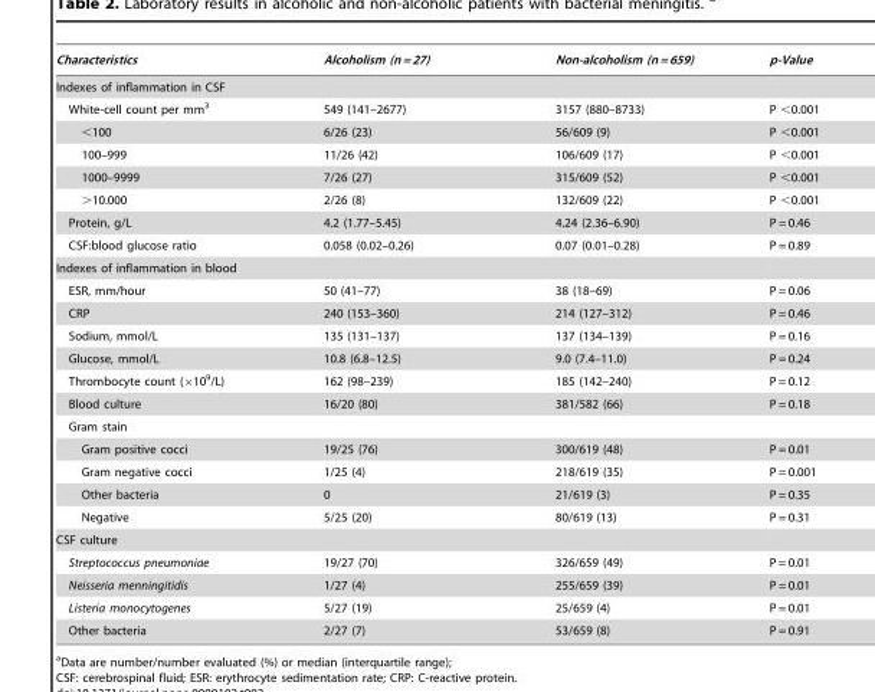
<table><thead><tr><td>Characteristics</td><td>Alcoholism (n = 27)</td><td>Non-alcoholism (n = 659)</td><td>p-Value</td></tr></thead><tbody><tr><td colspan="4">Indexes of inflammation in CSF</td></tr><tr><td>White-cell count per mm<sup>3</sup></td><td>549 (141–2677)</td><td>3157 (880–8733)</td><td>P &lt;0.001</td></tr><tr><td>&lt;100</td><td>6/26 (23)</td><td>56/609 (9)</td><td>P &lt;0.001</td></tr><tr><td>100–999</td><td>11/26 (42)</td><td>106/609 (17)</td><td>P &lt;0.001</td></tr><tr><td>1000–9999</td><td>7/26 (27)</td><td>315/609 (52)</td><td>P &lt;0.001</td></tr><tr><td>&gt;10.000</td><td>2/26 (8)</td><td>132/609 (22)</td><td>P &lt;0.001</td></tr><tr><td>Protein, g/L</td><td>4.2 (1.77–5.45)</td><td>4.24 (2.36–6.90)</td><td>P = 0.46</td></tr><tr><td>CSF:blood glucose ratio</td><td>0.058 (0.02–0.26)</td><td>0.07 (0.01–0.28)</td><td>P = 0.89</td></tr><tr><td colspan="4">Indexes of inflammation in blood</td></tr><tr><td>ESR, mm/hour</td><td>50 (41–77)</td><td>38 (18–69)</td><td>P = 0.06</td></tr><tr><td>CRP</td><td>240 (153–360)</td><td>214 (127–312)</td><td>P = 0.46</td></tr><tr><td>Sodium, mmol/L</td><td>135 (131–137)</td><td>137 (134–139)</td><td>P = 0.16</td></tr><tr><td>Glucose, mmol/L</td><td>10.8 (6.8–12.5)</td><td>9.0 (7.4–11.0)</td><td>P = 0.24</td></tr><tr><td>Thrombocyte count (×10<sup>9</sup>/L)</td><td>162 (98–239)</td><td>185 (142–240)</td><td>P = 0.12</td></tr><tr><td>Blood culture</td><td>16/20 (80)</td><td>381/582 (66)</td><td>P = 0.18</td></tr><tr><td colspan="4">Gram stain</td></tr><tr><td>Gram positive cocci</td><td>19/25 (76)</td><td>300/619 (48)</td><td>P = 0.01</td></tr><tr><td>Gram negative cocci</td><td>1/25 (4)</td><td>218/619 (35)</td><td>P = 0.001</td></tr><tr><td>Other bacteria</td><td>0</td><td>21/619 (3)</td><td>P = 0.35</td></tr><tr><td>Negative</td><td>5/25 (20)</td><td>80/619 (13)</td><td>P = 0.31</td></tr><tr><td colspan="4">CSF culture</td></tr><tr><td>Streptococcus pneumoniae</td><td>19/27 (70)</td><td>326/659 (49)</td><td>P = 0.01</td></tr><tr><td>Neisseria menningitidis</td><td>1/27 (4)</td><td>255/659 (39)</td><td>P = 0.01</td></tr><tr><td>Listeria monocytogenes</td><td>5/27 (19)</td><td>25/659 (4)</td><td>P = 0.01</td></tr><tr><td>Other bacteria</td><td>2/27 (7)</td><td>53/659 (8)</td><td>P = 0.91</td></tr></tbody></table>